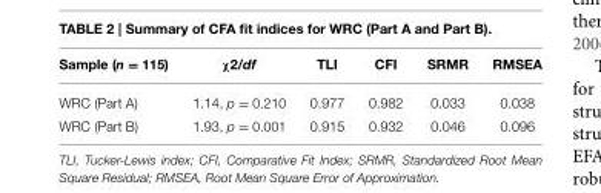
<table><thead><tr><td>Sample (n = 115)</td><td>χ2/df</td><td>TLI</td><td>CFI</td><td>SRMR</td><td>RMSEA</td></tr></thead><tbody><tr><td>WRC (Part A)</td><td>1.14, p = 0.210</td><td>0.977</td><td>0.982</td><td>0.033</td><td>0.038</td></tr><tr><td>WRC (Part B)</td><td>1.93, p = 0.001</td><td>0.915</td><td>0.932</td><td>0.046</td><td>0.096</td></tr></tbody></table>